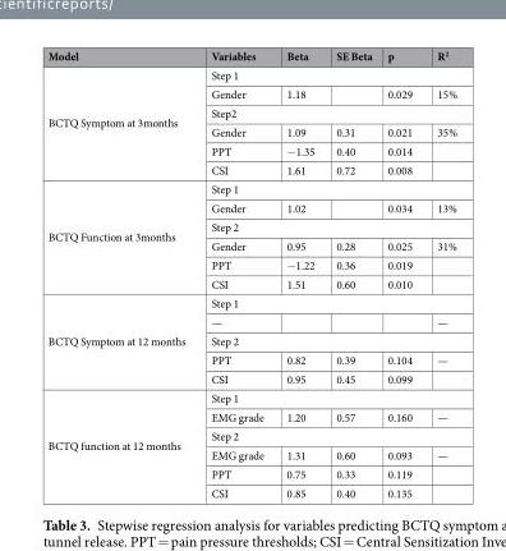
<table><thead><tr><td>Model</td><td>Variables</td><td>Beta</td><td>SE Beta</td><td>p</td><td>R<sup>2</sup></td></tr></thead><tbody><tr><td rowspan="6">BCTQ Symptom at 3months</td><td colspan="5">Step 1</td></tr><tr><td>Gender</td><td>1.18</td><td></td><td>0.029</td><td>15%</td></tr><tr><td colspan="5">Step2</td></tr><tr><td>Gender</td><td>1.09</td><td>0.31</td><td>0.021</td><td>35%</td></tr><tr><td>PPT</td><td>−1.35</td><td>0.40</td><td>0.014</td><td></td></tr><tr><td>CSI</td><td>1.61</td><td>0.72</td><td>0.008</td><td></td></tr><tr><td rowspan="6">BCTQ Function at 3months</td><td colspan="5">Step 1</td></tr><tr><td>Gender</td><td>1.02</td><td></td><td>0.034</td><td>13%</td></tr><tr><td colspan="5">Step 2</td></tr><tr><td>Gender</td><td>0.95</td><td>0.28</td><td>0.025</td><td>31%</td></tr><tr><td>PPT</td><td>−1.22</td><td>0.36</td><td>0.019</td><td></td></tr><tr><td>CSI</td><td>1.51</td><td>0.60</td><td>0.010</td><td></td></tr><tr><td rowspan="5">BCTQ Symptom at 12 months</td><td colspan="5">Step 1</td></tr><tr><td>—</td><td></td><td></td><td></td><td>—</td></tr><tr><td colspan="5">Step 2</td></tr><tr><td>PPT</td><td>0.82</td><td>0.39</td><td>0.104</td><td>—</td></tr><tr><td>CSI</td><td>0.95</td><td>0.45</td><td>0.099</td><td></td></tr><tr><td rowspan="6">BCTQ function at 12 months</td><td colspan="5">Step 1</td></tr><tr><td>EMG grade</td><td>1.20</td><td>0.57</td><td>0.160</td><td>—</td></tr><tr><td colspan="5">Step 2</td></tr><tr><td>EMG grade</td><td>1.31</td><td>0.60</td><td>0.093</td><td>—</td></tr><tr><td>PPT</td><td>0.75</td><td>0.33</td><td>0.119</td><td></td></tr><tr><td>CSI</td><td>0.85</td><td>0.40</td><td>0.135</td><td></td></tr></tbody></table>